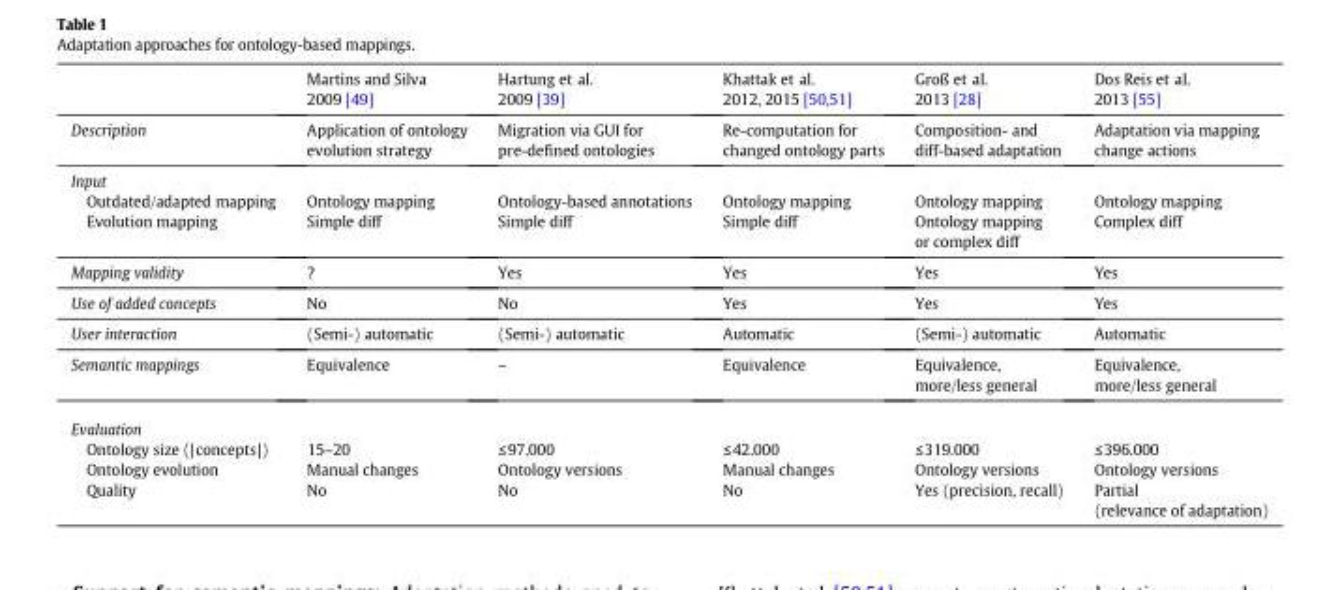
<table><thead><tr><td></td><td>Martins and Silva 2009 [49]</td><td>Hartung et al. 2009 [39]</td><td>Khattak et al. 2012, 2015 [50,51]</td><td>Groß et al. 2013 [28]</td><td>Dos Reis et al. 2013 [55]</td></tr></thead><tbody><tr><td>Description</td><td>Application of ontology evolution strategy</td><td>Migration via GUI for pre-defined ontologies</td><td>Re-computation for changed ontology parts</td><td>Composition- and diff-based adaptation</td><td>Adaptation via mapping change actions</td></tr><tr><td colspan="6">Input</td></tr><tr><td>Outdated/adapted mapping</td><td>Ontology mapping</td><td>Ontology-based annotations</td><td>Ontology mapping</td><td>Ontology mapping</td><td>Ontology mapping</td></tr><tr><td>Evolution mapping</td><td>Simple diff</td><td>Simple diff</td><td>Simple diff</td><td>Ontology mapping or complex diff</td><td>Complex diff</td></tr><tr><td>Mapping validity</td><td>?</td><td>Yes</td><td>Yes</td><td>Yes</td><td>Yes</td></tr><tr><td>Use of added concepts</td><td>No</td><td>No</td><td>Yes</td><td>Yes</td><td>Yes</td></tr><tr><td>User interaction</td><td>(Semi-) automatic</td><td>(Semi-) automatic</td><td>Automatic</td><td>(Semi-) automatic</td><td>Automatic</td></tr><tr><td>Semantic mappings</td><td>Equivalence</td><td>–</td><td>Equivalence</td><td>Equivalence, more/less general</td><td>Equivalence, more/less general</td></tr><tr><td colspan="6">Evaluation</td></tr><tr><td>Ontology size (|concepts|)</td><td>15–20</td><td>≤97.000</td><td>≤42.000</td><td>≤319.000</td><td>≤396.000</td></tr><tr><td>Ontology evolution</td><td>Manual changes</td><td>Ontology versions</td><td>Manual changes</td><td>Ontology versions</td><td>Ontology versions</td></tr><tr><td>Quality</td><td>No</td><td>No</td><td>No</td><td>Yes (precision, recall)</td><td>Partial (relevance of adaptation)</td></tr></tbody></table>